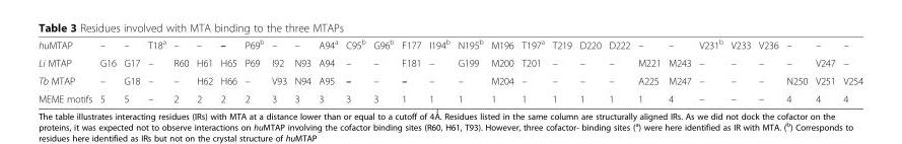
<table><tbody><tr><td>huMTAP</td><td>–</td><td>–</td><td>T18<sup>a</sup></td><td>–</td><td>–</td><td>–</td><td>P69<sup>b</sup></td><td>–</td><td>–</td><td>A94<sup>a</sup></td><td>C95<sup>b</sup></td><td>G96<sup>b</sup></td><td>F177</td><td>I194<sup>b</sup></td><td>N195<sup>b</sup></td><td>M196</td><td>T197<sup>a</sup></td><td>T219</td><td>D220</td><td>D222</td><td>–</td><td>–</td><td>V231<sup>b</sup></td><td>V233</td><td>V236</td><td>–</td><td>–</td><td>–</td></tr><tr><td>Li MTAP</td><td>G16</td><td>G17</td><td>–</td><td>R60</td><td>H61</td><td>H65</td><td>P69</td><td>I92</td><td>N93</td><td>A94</td><td>–</td><td>–</td><td>F181</td><td>–</td><td>G199</td><td>M200</td><td>T201</td><td>–</td><td>–</td><td>–</td><td>M221</td><td>M243</td><td>–</td><td>–</td><td>–</td><td>–</td><td>V247</td><td>–</td></tr><tr><td>Tb MTAP</td><td>–</td><td>G18</td><td>–</td><td>–</td><td>H62</td><td>H66</td><td>–</td><td>V93</td><td>N94</td><td>A95</td><td>–</td><td>–</td><td>–</td><td>–</td><td>–</td><td>M204</td><td>–</td><td>–</td><td>–</td><td>–</td><td>A225</td><td>M247</td><td>–</td><td>–</td><td>–</td><td>N250</td><td>V251</td><td>V254</td></tr><tr><td>MEME motifs</td><td>5</td><td>5</td><td>–</td><td>2</td><td>2</td><td>2</td><td>2</td><td>3</td><td>3</td><td>3</td><td>3</td><td>3</td><td>1</td><td>1</td><td>1</td><td>1</td><td>1</td><td>1</td><td>1</td><td>1</td><td>1</td><td>4</td><td>–</td><td>–</td><td>–</td><td>4</td><td>4</td><td>4</td></tr></tbody></table>